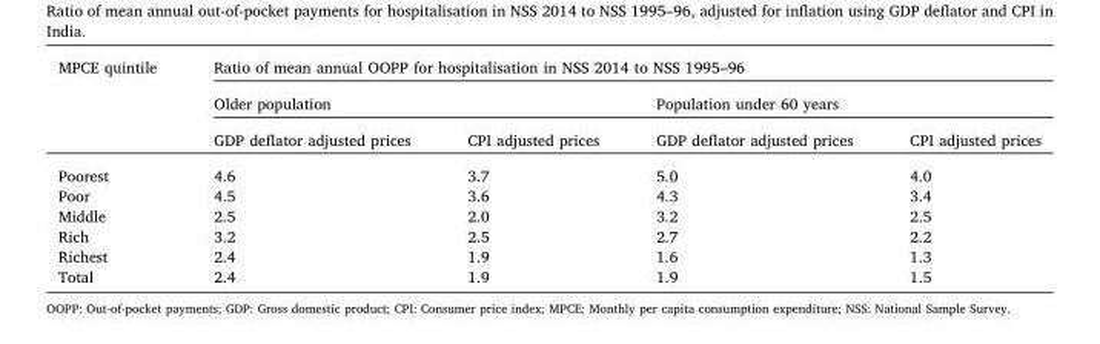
<table><thead><tr><td rowspan="3">MPCE quintile</td><td colspan="4">Ratio of mean annual OOPP for hospitalisation in NSS 2014 to NSS 1995–96</td></tr><tr><td colspan="2">Older population</td><td colspan="2">Population under 60 years</td></tr><tr><td>GDP deflator adjusted prices</td><td>CPI adjusted prices</td><td>GDP deflator adjusted prices</td><td>CPI adjusted prices</td></tr></thead><tbody><tr><td>Poorest</td><td>4.6</td><td>3.7</td><td>5.0</td><td>4.0</td></tr><tr><td>Poor</td><td>4.5</td><td>3.6</td><td>4.3</td><td>3.4</td></tr><tr><td>Middle</td><td>2.5</td><td>2.0</td><td>3.2</td><td>2.5</td></tr><tr><td>Rich</td><td>3.2</td><td>2.5</td><td>2.7</td><td>2.2</td></tr><tr><td>Richest</td><td>2.4</td><td>1.9</td><td>1.6</td><td>1.3</td></tr><tr><td>Total</td><td>2.4</td><td>1.9</td><td>1.9</td><td>1.5</td></tr></tbody></table>